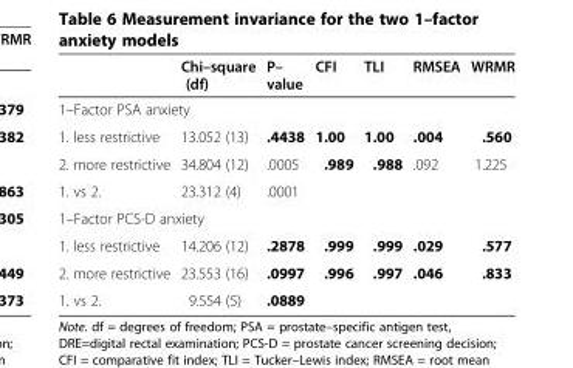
<table><thead><tr><td></td><td>Chi–square (df)</td><td>P– value</td><td>CFI</td><td>TLI</td><td>RMSEA</td><td>WRMR</td></tr></thead><tbody><tr><td colspan="7">1–Factor PSA anxiety</td></tr><tr><td>1. less restrictive</td><td>13.052 (13)</td><td>.4438</td><td>1.00</td><td>1.00</td><td>.004</td><td>.560</td></tr><tr><td>2. more restrictive</td><td>34.804 (12)</td><td>.0005</td><td>.989</td><td>.988</td><td>.092</td><td>1.225</td></tr><tr><td>1. vs 2.</td><td>23.312 (4)</td><td>.0001</td><td></td><td></td><td></td><td></td></tr><tr><td colspan="7">1–Factor PCS-D anxiety</td></tr><tr><td>1. less restrictive</td><td>14.206 (12)</td><td>.2878</td><td>.999</td><td>.999</td><td>.029</td><td>.577</td></tr><tr><td>2. more restrictive</td><td>23.553 (16)</td><td>.0997</td><td>.996</td><td>.997</td><td>.046</td><td>.833</td></tr><tr><td>1. vs 2.</td><td>9.554 (5)</td><td>.0889</td><td></td><td></td><td></td><td></td></tr></tbody></table>